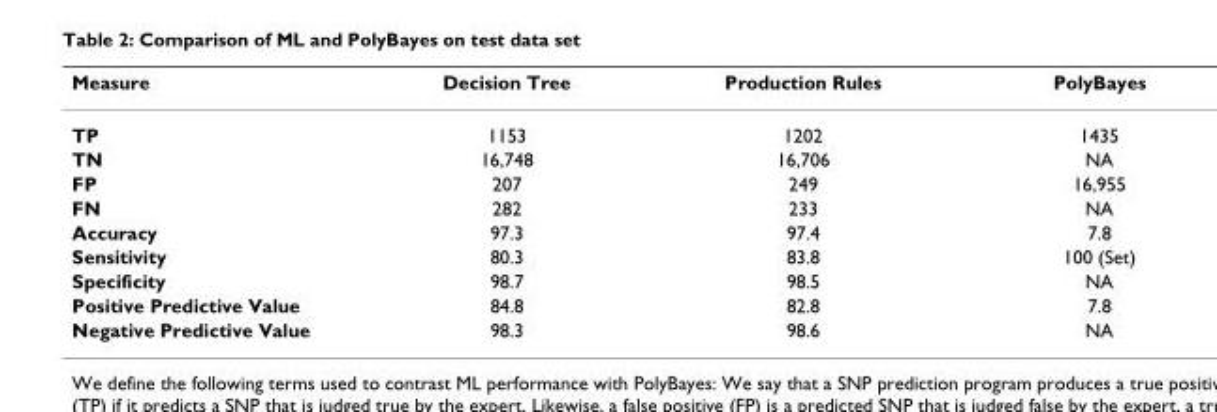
<table><thead><tr><td>Measure</td><td>Decision Tree</td><td>Production Rules</td><td>PolyBayes</td></tr></thead><tbody><tr><td>TP</td><td>1153</td><td>1202</td><td>1435</td></tr><tr><td>TN</td><td>16,748</td><td>16,706</td><td>NA</td></tr><tr><td>FP</td><td>207</td><td>249</td><td>16,955</td></tr><tr><td>FN</td><td>282</td><td>233</td><td>NA</td></tr><tr><td>Accuracy</td><td>97.3</td><td>97.4</td><td>7.8</td></tr><tr><td>Sensitivity</td><td>80.3</td><td>83.8</td><td>100 (Set)</td></tr><tr><td>Specificity</td><td>98.7</td><td>98.5</td><td>NA</td></tr><tr><td>Positive Predictive Value</td><td>84.8</td><td>82.8</td><td>7.8</td></tr><tr><td>Negative Predictive Value</td><td>98.3</td><td>98.6</td><td>NA</td></tr></tbody></table>